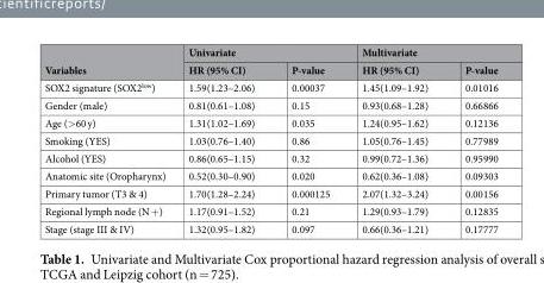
<table><thead><tr><td rowspan="2">Variables</td><td colspan="2">Univariate</td><td colspan="2">Multivariate</td></tr><tr><td>HR (95% CI)</td><td>P-value</td><td>HR (95% CI)</td><td>P-value</td></tr></thead><tbody><tr><td>SOX2 signature (SOX2<sup>low</sup>)</td><td>1.59(1.23–2.06)</td><td>0.00037</td><td>1.45(1.09–1.92)</td><td>0.01016</td></tr><tr><td>Gender (male)</td><td>0.81(0.61–1.08)</td><td>0.15</td><td>0.93(0.68–1.28)</td><td>0.66866</td></tr><tr><td>Age (&gt;60 y)</td><td>1.31(1.02–1.69)</td><td>0.035</td><td>1.24(0.95–1.62)</td><td>0.12136</td></tr><tr><td>Smoking (YES)</td><td>1.03(0.76–1.40)</td><td>0.86</td><td>1.05(0.76–1.45)</td><td>0.77989</td></tr><tr><td>Alcohol (YES)</td><td>0.86(0.65–1.15)</td><td>0.32</td><td>0.99(0.72–1.36)</td><td>0.95990</td></tr><tr><td>Anatomic site (Oropharynx)</td><td>0.52(0.30–0.90)</td><td>0.020</td><td>0.62(0.36–1.08)</td><td>0.09303</td></tr><tr><td>Primary tumor (T3 &amp; 4)</td><td>1.70(1.28–2.24)</td><td>0.000125</td><td>2.07(1.32–3.24)</td><td>0.00156</td></tr><tr><td>Regional lymph node (N +)</td><td>1.17(0.91–1.52)</td><td>0.21</td><td>1.29(0.93–1.79)</td><td>0.12835</td></tr><tr><td>Stage (stage III &amp; IV)</td><td>1.32(0.95–1.82)</td><td>0.097</td><td>0.66(0.36–1.21)</td><td>0.17777</td></tr></tbody></table>